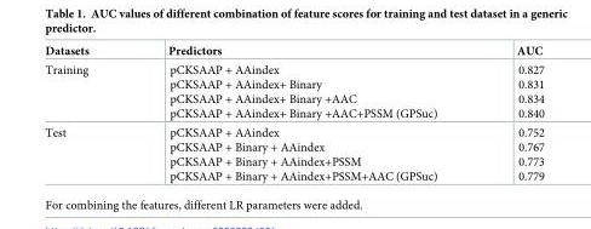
<table><thead><tr><td>Datasets</td><td>Predictors</td><td>AUC</td></tr></thead><tbody><tr><td>Training</td><td>pCKSAAP + AAindex pCKSAAP + AAindex+ Binary pCKSAAP + AAindex+ Binary +AAC pCKSAAP + AAindex+ Binary +AAC+PSSM (GPSuc)</td><td>0.827 0.831 0.834 0.840</td></tr><tr><td>Test</td><td>pCKSAAP + AAindex pCKSAAP + Binary + AAindex pCKSAAP + Binary + AAindex+PSSM pCKSAAP + Binary + AAindex+PSSM+AAC (GPSuc)</td><td>0.752 0.767 0.773 0.779</td></tr></tbody></table>